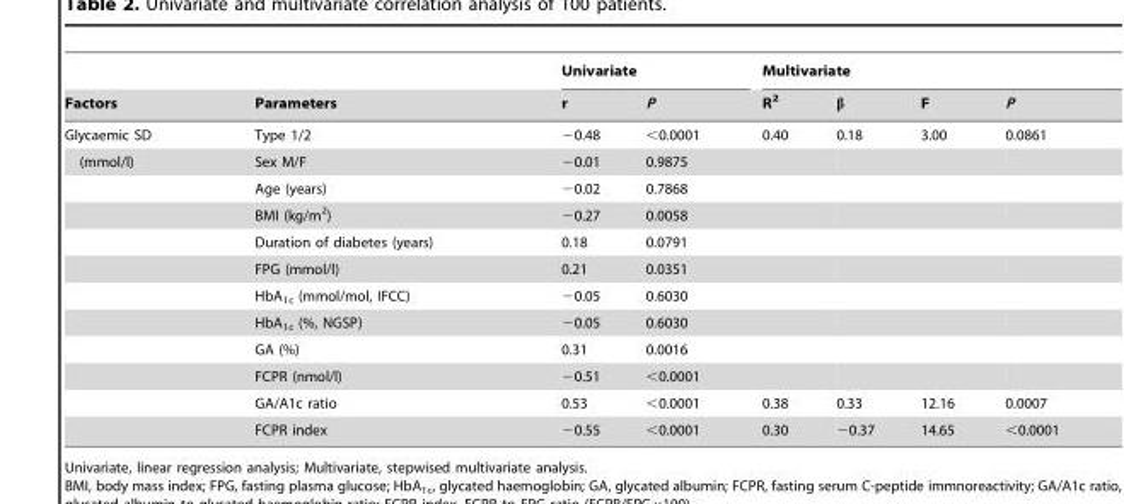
<table><thead><tr><td rowspan="2">Factors</td><td rowspan="2">Parameters</td><td colspan="2">Univariate</td><td colspan="4">Multivariate</td></tr><tr><td>r</td><td>P</td><td>R<sup>2</sup></td><td>β</td><td>F</td><td>P</td></tr></thead><tbody><tr><td>Glycaemic SD</td><td>Type 1/2</td><td>−0.48</td><td>&lt;0.0001</td><td>0.40</td><td>0.18</td><td>3.00</td><td>0.0861</td></tr><tr><td rowspan="11">(mmol/l)</td><td>Sex M/F</td><td>−0.01</td><td>0.9875</td><td></td><td></td><td></td><td></td></tr><tr><td>Age (years)</td><td>−0.02</td><td>0.7868</td><td></td><td></td><td></td><td></td></tr><tr><td>BMI (kg/m<sup>2</sup>)</td><td>−0.27</td><td>0.0058</td><td></td><td></td><td></td><td></td></tr><tr><td>Duration of diabetes (years)</td><td>0.18</td><td>0.0791</td><td></td><td></td><td></td><td></td></tr><tr><td>FPG (mmol/l)</td><td>0.21</td><td>0.0351</td><td></td><td></td><td></td><td></td></tr><tr><td>HbA<sub>1c</sub> (mmol/mol, IFCC)</td><td>−0.05</td><td>0.6030</td><td></td><td></td><td></td><td></td></tr><tr><td>HbA<sub>1c</sub> (%, NGSP)</td><td>−0.05</td><td>0.6030</td><td></td><td></td><td></td><td></td></tr><tr><td>GA (%)</td><td>0.31</td><td>0.0016</td><td></td><td></td><td></td><td></td></tr><tr><td>FCPR (nmol/l)</td><td>−0.51</td><td>&lt;0.0001</td><td></td><td></td><td></td><td></td></tr><tr><td>GA/A1c ratio</td><td>0.53</td><td>&lt;0.0001</td><td>0.38</td><td>0.33</td><td>12.16</td><td>0.0007</td></tr><tr><td>FCPR index</td><td>−0.55</td><td>&lt;0.0001</td><td>0.30</td><td>−0.37</td><td>14.65</td><td>&lt;0.0001</td></tr></tbody></table>